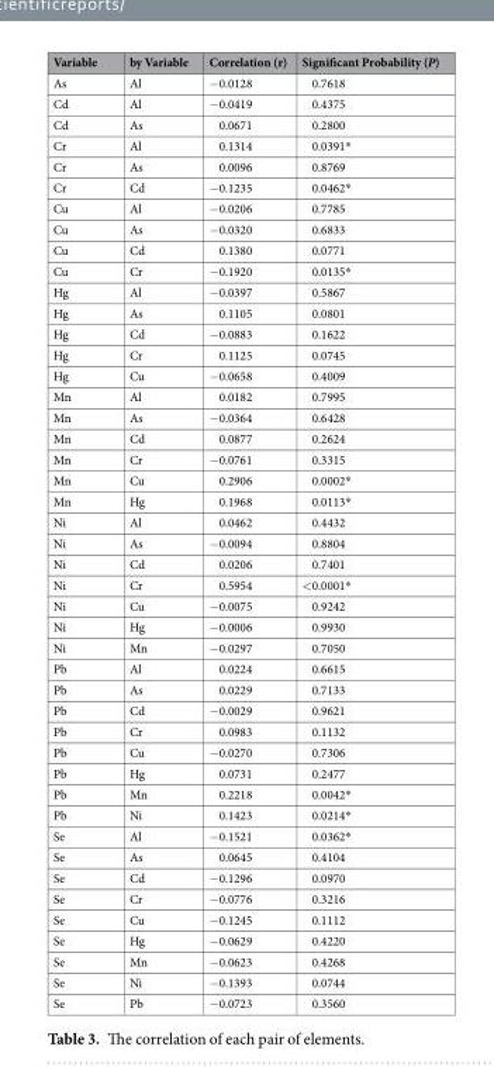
<table><thead><tr><td>Variable</td><td>by Variable</td><td>Correlation (r)</td><td>Significant Probability (P)</td></tr></thead><tbody><tr><td>As</td><td>Al</td><td>−0.0128</td><td>0.7618</td></tr><tr><td>Cd</td><td>Al</td><td>−0.0419</td><td>0.4375</td></tr><tr><td>Cd</td><td>As</td><td>0.0671</td><td>0.2800</td></tr><tr><td>Cr</td><td>Al</td><td>0.1314</td><td>0.0391*</td></tr><tr><td>Cr</td><td>As</td><td>0.0096</td><td>0.8769</td></tr><tr><td>Cr</td><td>Cd</td><td>−0.1235</td><td>0.0462*</td></tr><tr><td>Cu</td><td>Al</td><td>−0.0206</td><td>0.7785</td></tr><tr><td>Cu</td><td>As</td><td>−0.0320</td><td>0.6833</td></tr><tr><td>Cu</td><td>Cd</td><td>0.1380</td><td>0.0771</td></tr><tr><td>Cu</td><td>Cr</td><td>−0.1920</td><td>0.0135*</td></tr><tr><td>Hg</td><td>Al</td><td>−0.0397</td><td>0.5867</td></tr><tr><td>Hg</td><td>As</td><td>0.1105</td><td>0.0801</td></tr><tr><td>Hg</td><td>Cd</td><td>−0.0883</td><td>0.1622</td></tr><tr><td>Hg</td><td>Cr</td><td>0.1125</td><td>0.0745</td></tr><tr><td>Hg</td><td>Cu</td><td>−0.0658</td><td>0.4009</td></tr><tr><td>Mn</td><td>Al</td><td>0.0182</td><td>0.7995</td></tr><tr><td>Mn</td><td>As</td><td>−0.0364</td><td>0.6428</td></tr><tr><td>Mn</td><td>Cd</td><td>0.0877</td><td>0.2624</td></tr><tr><td>Mn</td><td>Cr</td><td>−0.0761</td><td>0.3315</td></tr><tr><td>Mn</td><td>Cu</td><td>0.2906</td><td>0.0002*</td></tr><tr><td>Mn</td><td>Hg</td><td>0.1968</td><td>0.0113*</td></tr><tr><td>Ni</td><td>Al</td><td>0.0462</td><td>0.4432</td></tr><tr><td>Ni</td><td>As</td><td>−0.0094</td><td>0.8804</td></tr><tr><td>Ni</td><td>Cd</td><td>0.0206</td><td>0.7401</td></tr><tr><td>Ni</td><td>Cr</td><td>0.5954</td><td>&lt;0.0001*</td></tr><tr><td>Ni</td><td>Cu</td><td>−0.0075</td><td>0.9242</td></tr><tr><td>Ni</td><td>Hg</td><td>−0.0006</td><td>0.9930</td></tr><tr><td>Ni</td><td>Mn</td><td>−0.0297</td><td>0.7050</td></tr><tr><td>Pb</td><td>Al</td><td>0.0224</td><td>0.6615</td></tr><tr><td>Pb</td><td>As</td><td>0.0229</td><td>0.7133</td></tr><tr><td>Pb</td><td>Cd</td><td>−0.0029</td><td>0.9621</td></tr><tr><td>Pb</td><td>Cr</td><td>0.0983</td><td>0.1132</td></tr><tr><td>Pb</td><td>Cu</td><td>−0.0270</td><td>0.7306</td></tr><tr><td>Pb</td><td>Hg</td><td>0.0731</td><td>0.2477</td></tr><tr><td>Pb</td><td>Mn</td><td>0.2218</td><td>0.0042*</td></tr><tr><td>Pb</td><td>Ni</td><td>0.1423</td><td>0.0214*</td></tr><tr><td>Se</td><td>Al</td><td>−0.1521</td><td>0.0362*</td></tr><tr><td>Se</td><td>As</td><td>0.0645</td><td>0.4104</td></tr><tr><td>Se</td><td>Cd</td><td>−0.1296</td><td>0.0970</td></tr><tr><td>Se</td><td>Cr</td><td>−0.0776</td><td>0.3216</td></tr><tr><td>Se</td><td>Cu</td><td>−0.1245</td><td>0.1112</td></tr><tr><td>Se</td><td>Hg</td><td>−0.0629</td><td>0.4220</td></tr><tr><td>Se</td><td>Mn</td><td>−0.0623</td><td>0.4268</td></tr><tr><td>Se</td><td>Ni</td><td>−0.1393</td><td>0.0744</td></tr><tr><td>Se</td><td>Pb</td><td>−0.0723</td><td>0.3560</td></tr></tbody></table>